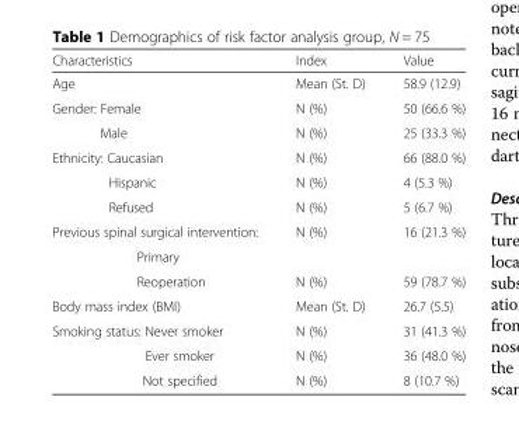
<table><thead><tr><td>Characteristics</td><td>Index</td><td>Value</td></tr></thead><tbody><tr><td>Age</td><td>Mean (St. D)</td><td>58.9 (12.9)</td></tr><tr><td>Gender: Female</td><td>N (%)</td><td>50 (66.6 %)</td></tr><tr><td>Male</td><td>N (%)</td><td>25 (33.3 %)</td></tr><tr><td>Ethnicity: Caucasian</td><td>N (%)</td><td>66 (88.0 %)</td></tr><tr><td>Hispanic</td><td>N (%)</td><td>4 (5.3 %)</td></tr><tr><td>Refused</td><td>N (%)</td><td>5 (6.7 %)</td></tr><tr><td>Previous spinal surgical intervention:</td><td rowspan="2">N (%)</td><td rowspan="2">16 (21.3 %)</td></tr><tr><td>Primary</td></tr><tr><td>Reoperation</td><td>N (%)</td><td>59 (78.7 %)</td></tr><tr><td>Body mass index (BMI)</td><td>Mean (St. D)</td><td>26.7 (5.5)</td></tr><tr><td>Smoking status: Never smoker</td><td>N (%)</td><td>31 (41.3 %)</td></tr><tr><td>Ever smoker</td><td>N (%)</td><td>36 (48.0 %)</td></tr><tr><td>Not specified</td><td>N (%)</td><td>8 (10.7 %)</td></tr></tbody></table>